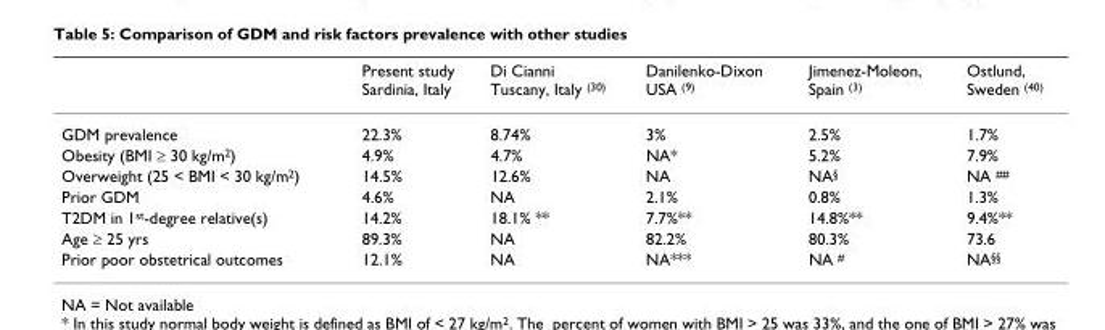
<table><thead><tr><td></td><td>Present study Sardinia, Italy</td><td>Di Cianni Tuscany, Italy <sup>(30)</sup></td><td>Danilenko-Dixon USA <sup>(9)</sup></td><td>Jimenez-Moleon, Spain <sup>(3)</sup></td><td>Ostlund, Sweden <sup>(40)</sup></td></tr></thead><tbody><tr><td>GDM prevalence</td><td>22.3%</td><td>8.74%</td><td>3%</td><td>2.5%</td><td>1.7%</td></tr><tr><td>Obesity (BMI ≥ 30 kg/m<sup>2</sup>)</td><td>4.9%</td><td>4.7%</td><td>NA*</td><td>5.2%</td><td>7.9%</td></tr><tr><td>Overweight (25 &lt; BMI &lt; 30 kg/m<sup>2</sup>)</td><td>14.5%</td><td>12.6%</td><td>NA</td><td>NA<sup>§</sup></td><td>NA <sup>##</sup></td></tr><tr><td>Prior GDM</td><td>4.6%</td><td>NA</td><td>2.1%</td><td>0.8%</td><td>1.3%</td></tr><tr><td>T2DM in 1<sup>st</sup>-degree relative(s)</td><td>14.2%</td><td>18.1% **</td><td>7.7%**</td><td>14.8%**</td><td>9.4%**</td></tr><tr><td>Age ≥ 25 yrs</td><td>89.3%</td><td>NA</td><td>82.2%</td><td>80.3%</td><td>73.6</td></tr><tr><td>Prior poor obstetrical outcomes</td><td>12.1%</td><td>NA</td><td>NA***</td><td>NA <sup>#</sup></td><td>NA<sup>§§</sup></td></tr></tbody></table>